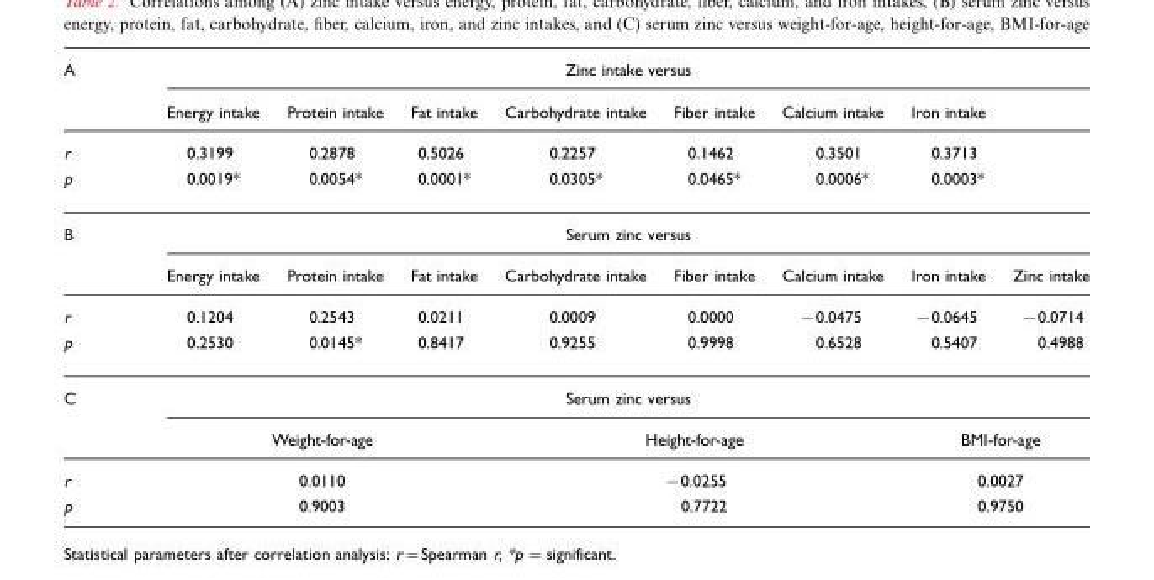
<table><tbody><tr><td rowspan="2">A</td><td colspan="8">Zinc intake versus</td></tr><tr><td>Energy intake</td><td>Protein intake</td><td>Fat intake</td><td>Carbohydrate intake</td><td>Fiber intake</td><td>Calcium intake</td><td>Iron intake</td><td></td></tr><tr><td>r</td><td>0.3199</td><td>0.2878</td><td>0.5026</td><td>0.2257</td><td>0.1462</td><td>0.3501</td><td>0.3713</td><td></td></tr><tr><td>p</td><td>0.0019*</td><td>0.0054*</td><td>0.0001*</td><td>0.0305*</td><td>0.0465*</td><td>0.0006*</td><td>0.0003*</td><td></td></tr><tr><td rowspan="2">B</td><td colspan="8">Serum zinc versus</td></tr><tr><td>Energy intake</td><td>Protein intake</td><td>Fat intake</td><td>Carbohydrate intake</td><td>Fiber intake</td><td>Calcium intake</td><td>Iron intake</td><td>Zinc intake</td></tr><tr><td>r</td><td>0.1204</td><td>0.2543</td><td>0.0211</td><td>0.0009</td><td>0.0000</td><td>−0.0475</td><td>−0.0645</td><td>−0.0714</td></tr><tr><td>p</td><td>0.2530</td><td>0.0145*</td><td>0.8417</td><td>0.9255</td><td>0.9998</td><td>0.6528</td><td>0.5407</td><td>0.4988</td></tr><tr><td rowspan="2">C</td><td colspan="8">Serum zinc versus</td></tr><tr><td colspan="3">Weight-for-age</td><td colspan="3">Height-for-age</td><td colspan="2">BMI-for-age</td></tr><tr><td>r</td><td colspan="3">0.0110</td><td colspan="3">−0.0255</td><td colspan="2">0.0027</td></tr><tr><td>p</td><td colspan="3">0.9003</td><td colspan="3">0.7722</td><td colspan="2">0.9750</td></tr></tbody></table>